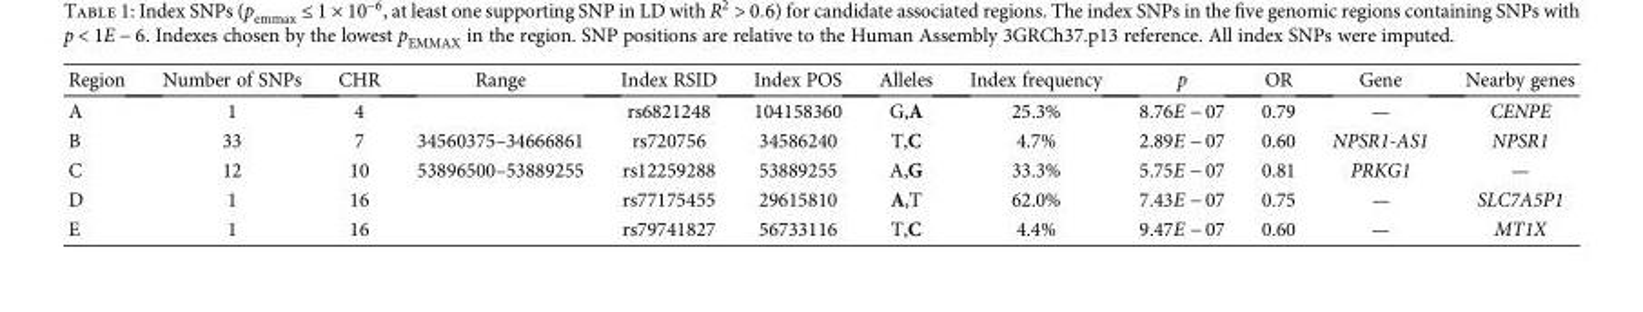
<table><thead><tr><td>Region</td><td>Number of SNPs</td><td>CHR</td><td>Range</td><td>Index RSID</td><td>Index POS</td><td>Alleles</td><td>Index frequency</td><td>p</td><td>OR</td><td>Gene</td><td>Nearby genes</td></tr></thead><tbody><tr><td>A</td><td>1</td><td>4</td><td></td><td>rs6821248</td><td>104158360</td><td>G,A</td><td>25.3%</td><td>8.76E − 07</td><td>0.79</td><td>—</td><td>CENPE</td></tr><tr><td>B</td><td>33</td><td>7</td><td>34560375–34666861</td><td>rs720756</td><td>34586240</td><td>T,C</td><td>4.7%</td><td>2.89E − 07</td><td>0.60</td><td>NPSR1-AS1</td><td>NPSR1</td></tr><tr><td>C</td><td>12</td><td>10</td><td>53896500–53889255</td><td>rs12259288</td><td>53889255</td><td>A,G</td><td>33.3%</td><td>5.75E − 07</td><td>0.81</td><td>PRKG1</td><td>—</td></tr><tr><td>D</td><td>1</td><td>16</td><td></td><td>rs77175455</td><td>29615810</td><td>A,T</td><td>62.0%</td><td>7.43E − 07</td><td>0.75</td><td>—</td><td>SLC7A5P1</td></tr><tr><td>E</td><td>1</td><td>16</td><td></td><td>rs79741827</td><td>56733116</td><td>T,C</td><td>4.4%</td><td>9.47E − 07</td><td>0.60</td><td>—</td><td>MT1X</td></tr></tbody></table>